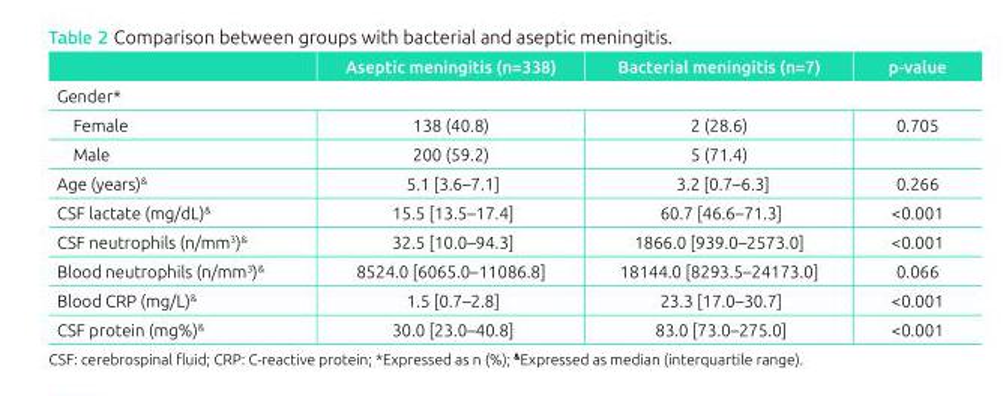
<table><thead><tr><td></td><td>Aseptic meningitis (n=338)</td><td>Bacterial meningitis (n=7)</td><td>p‑value</td></tr></thead><tbody><tr><td colspan="4">Gender*</td></tr><tr><td>Female</td><td>138 (40.8)</td><td>2 (28.6)</td><td>0.705</td></tr><tr><td>Male</td><td>200 (59.2)</td><td>5 (71.4)</td><td></td></tr><tr><td>Age (years)<sup>&amp;</sup></td><td>5.1 [3.6–7.1]</td><td>3.2 [0.7–6.3]</td><td>0.266</td></tr><tr><td>CSF lactate (mg/dL)<sup>&amp;</sup></td><td>15.5 [13.5–17.4]</td><td>60.7 [46.6–71.3]</td><td>&lt;0.001</td></tr><tr><td>CSF neutrophils (n/mm<sup>3</sup>)<sup>&amp;</sup></td><td>32.5 [10.0–94.3]</td><td>1866.0 [939.0–2573.0]</td><td>&lt;0.001</td></tr><tr><td>Blood neutrophils (n/mm<sup>3</sup>)<sup>&amp;</sup></td><td>8524.0 [6065.0–11086.8]</td><td>18144.0 [8293.5–24173.0]</td><td>0.066</td></tr><tr><td>Blood CRP (mg/L)<sup>&amp;</sup></td><td>1.5 [0.7–2.8]</td><td>23.3 [17.0–30.7]</td><td>&lt;0.001</td></tr><tr><td>CSF protein (mg%)<sup>&amp;</sup></td><td>30.0 [23.0–40.8]</td><td>83.0 [73.0–275.0]</td><td>&lt;0.001</td></tr></tbody></table>